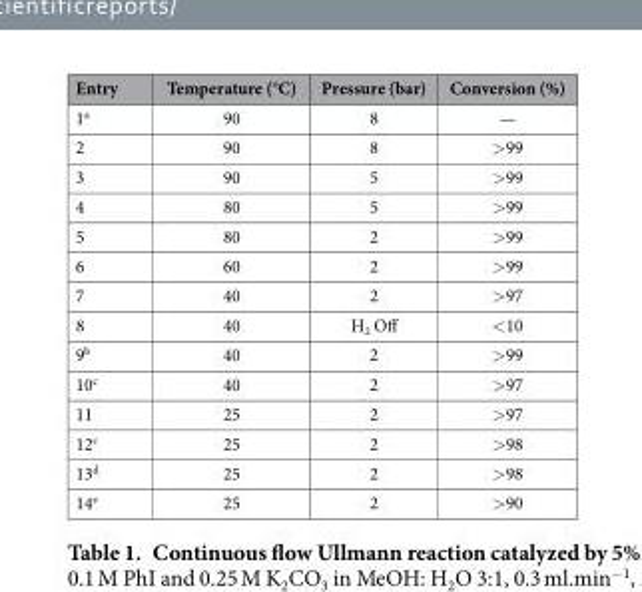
<table><thead><tr><td>Entry</td><td>Temperature (°C)</td><td>Pressure (bar)</td><td>Conversion (%)</td></tr></thead><tbody><tr><td>1<sup>a</sup></td><td>90</td><td>8</td><td>—</td></tr><tr><td>2</td><td>90</td><td>8</td><td>&gt; 99</td></tr><tr><td>3</td><td>90</td><td>5</td><td>&gt; 99</td></tr><tr><td>4</td><td>80</td><td>5</td><td>&gt; 99</td></tr><tr><td>5</td><td>80</td><td>2</td><td>&gt; 99</td></tr><tr><td>6</td><td>60</td><td>2</td><td>&gt; 99</td></tr><tr><td>7</td><td>40</td><td>2</td><td>&gt; 97</td></tr><tr><td>8</td><td>40</td><td>H<sub>2</sub> Off</td><td>&lt; 10</td></tr><tr><td>9<sup>b</sup></td><td>40</td><td>2</td><td>&gt; 99</td></tr><tr><td>10<sup>c</sup></td><td>40</td><td>2</td><td>&gt; 97</td></tr><tr><td>11</td><td>25</td><td>2</td><td>&gt; 97</td></tr><tr><td>12<sup>c</sup></td><td>25</td><td>2</td><td>&gt; 98</td></tr><tr><td>13<sup>d</sup></td><td>25</td><td>2</td><td>&gt; 98</td></tr><tr><td>14<sup>e</sup></td><td>25</td><td>2</td><td>&gt; 90</td></tr></tbody></table>